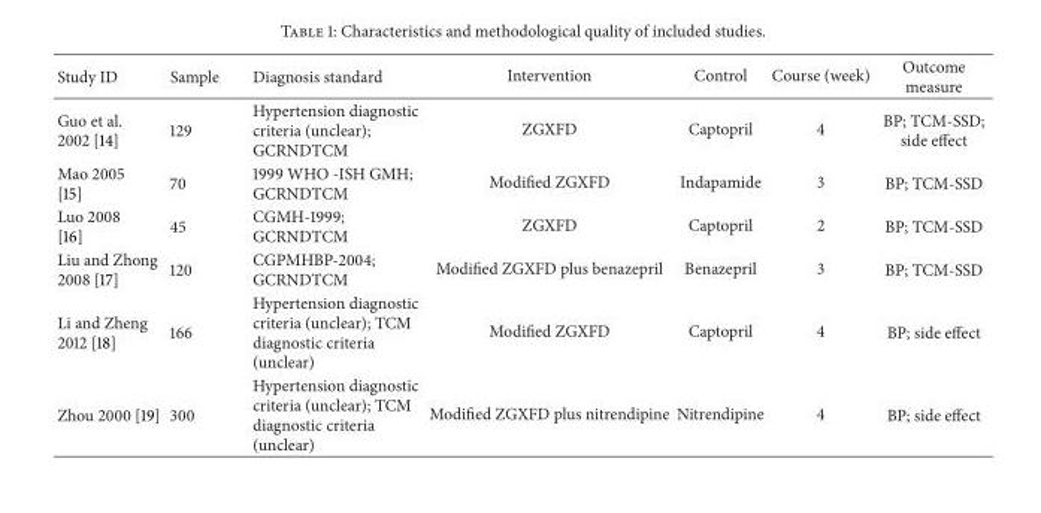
<table><thead><tr><td>Study ID</td><td>Sample</td><td>Diagnosis standard</td><td>Intervention</td><td>Control</td><td>Course (week)</td><td>Outcome measure</td></tr></thead><tbody><tr><td>Guo et al. 2002 [14]</td><td>129</td><td>Hypertension diagnostic criteria (unclear); GCRNDTCM</td><td>ZGXFD</td><td>Captopril</td><td>4</td><td>BP; TCM-SSD; side effect</td></tr><tr><td>Mao 2005 [15]</td><td>70</td><td>1999 WHO -ISH GMH; GCRNDTCM</td><td>Modified ZGXFD</td><td>Indapamide</td><td>3</td><td>BP; TCM-SSD</td></tr><tr><td>Luo 2008 [16]</td><td>45</td><td>CGMH-1999; GCRNDTCM</td><td>ZGXFD</td><td>Captopril</td><td>2</td><td>BP; TCM-SSD</td></tr><tr><td>Liu and Zhong 2008 [17]</td><td>120</td><td>CGPMHBP-2004; GCRNDTCM</td><td>Modified ZGXFD plus benazepril</td><td>Benazepril</td><td>3</td><td>BP; TCM-SSD</td></tr><tr><td>Li and Zheng 2012 [18]</td><td>166</td><td>Hypertension diagnostic criteria (unclear); TCM diagnostic criteria (unclear)</td><td>Modified ZGXFD</td><td>Captopril</td><td>4</td><td>BP; side effect</td></tr><tr><td>Zhou 2000 [19]</td><td>300</td><td>Hypertension diagnostic criteria (unclear); TCM diagnostic criteria (unclear)</td><td>Modified ZGXFD plus nitrendipine</td><td>Nitrendipine</td><td>4</td><td>BP; side effect</td></tr></tbody></table>